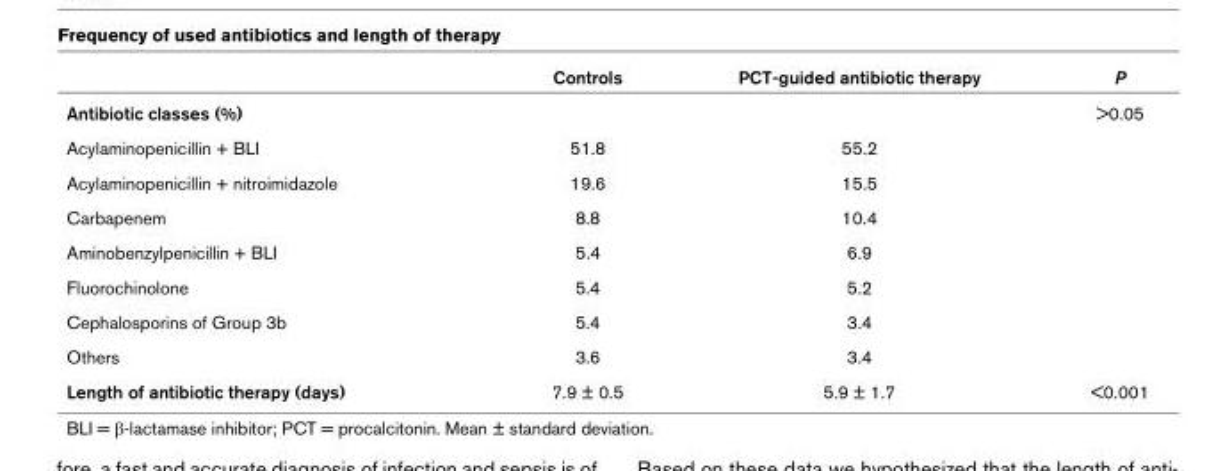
<table><thead><tr><td></td><td>Controls</td><td>PCT-guided antibiotic therapy</td><td>P</td></tr></thead><tbody><tr><td>Antibiotic classes (%)</td><td></td><td></td><td>&gt;0.05</td></tr><tr><td>Acylaminopenicillin + BLI</td><td>51.8</td><td>55.2</td><td></td></tr><tr><td>Acylaminopenicillin + nitroimidazole</td><td>19.6</td><td>15.5</td><td></td></tr><tr><td>Carbapenem</td><td>8.8</td><td>10.4</td><td></td></tr><tr><td>Aminobenzylpenicillin + BLI</td><td>5.4</td><td>6.9</td><td></td></tr><tr><td>Fluorochinolone</td><td>5.4</td><td>5.2</td><td></td></tr><tr><td>Cephalosporins of Group 3b</td><td>5.4</td><td>3.4</td><td></td></tr><tr><td>Others</td><td>3.6</td><td>3.4</td><td></td></tr><tr><td>Length of antibiotic therapy (days)</td><td>7.9 ± 0.5</td><td>5.9 ± 1.7</td><td>&lt;0.001</td></tr></tbody></table>